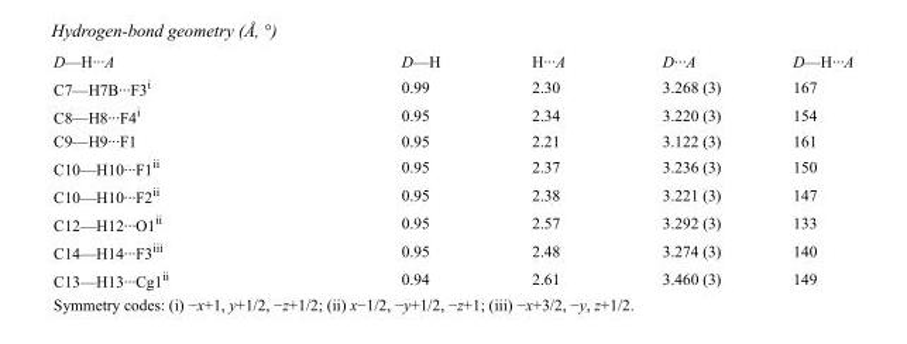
<table><tbody><tr><td>D—H···A</td><td>D—H</td><td>H···A</td><td>D···A</td><td>D—H···A</td></tr><tr><td>C7—H7B···F3<sup>i</sup></td><td>0.99</td><td>2.30</td><td>3.268 (3)</td><td>167</td></tr><tr><td>C8—H8···F4<sup>i</sup></td><td>0.95</td><td>2.34</td><td>3.220 (3)</td><td>154</td></tr><tr><td>C9—H9···F1</td><td>0.95</td><td>2.21</td><td>3.122 (3)</td><td>161</td></tr><tr><td>C10—H10···F1<sup>ii</sup></td><td>0.95</td><td>2.37</td><td>3.236 (3)</td><td>150</td></tr><tr><td>C10—H10···F2<sup>ii</sup></td><td>0.95</td><td>2.38</td><td>3.221 (3)</td><td>147</td></tr><tr><td>C12—H12···O1<sup>ii</sup></td><td>0.95</td><td>2.57</td><td>3.292 (3)</td><td>133</td></tr><tr><td>C14—H14···F3<sup>iii</sup></td><td>0.95</td><td>2.48</td><td>3.274 (3)</td><td>140</td></tr><tr><td>C13—H13···Cg1<sup>ii</sup></td><td>0.94</td><td>2.61</td><td>3.460 (3)</td><td>149</td></tr></tbody></table>